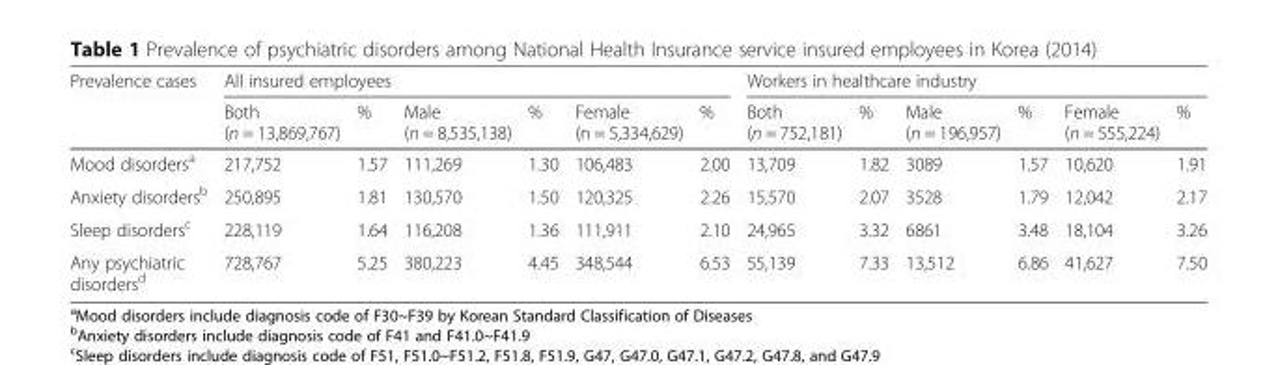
<table><thead><tr><td rowspan="2">Prevalence cases</td><td colspan="6">All insured employees</td><td colspan="6">Workers in healthcare industry</td></tr><tr><td>Both (n = 13,869,767)</td><td>%</td><td>Male (n = 8,535,138)</td><td>%</td><td>Female (n = 5,334,629)</td><td>%</td><td>Both (n = 752,181)</td><td>%</td><td>Male (n = 196,957)</td><td>%</td><td>Female (n = 555,224)</td><td>%</td></tr></thead><tbody><tr><td>Mood disorders<sup>a</sup></td><td>217,752</td><td>1.57</td><td>111,269</td><td>1.30</td><td>106,483</td><td>2.00</td><td>13,709</td><td>1.82</td><td>3089</td><td>1.57</td><td>10,620</td><td>1.91</td></tr><tr><td>Anxiety disorders<sup>b</sup></td><td>250,895</td><td>1.81</td><td>130,570</td><td>1.50</td><td>120,325</td><td>2.26</td><td>15,570</td><td>2.07</td><td>3528</td><td>1.79</td><td>12,042</td><td>2.17</td></tr><tr><td>Sleep disorders<sup>c</sup></td><td>228,119</td><td>1.64</td><td>116,208</td><td>1.36</td><td>111,911</td><td>2.10</td><td>24,965</td><td>3.32</td><td>6861</td><td>3.48</td><td>18,104</td><td>3.26</td></tr><tr><td>Any psychiatric disorders<sup>d</sup></td><td>728,767</td><td>5.25</td><td>380,223</td><td>4.45</td><td>348,544</td><td>6.53</td><td>55,139</td><td>7.33</td><td>13,512</td><td>6.86</td><td>41,627</td><td>7.50</td></tr></tbody></table>